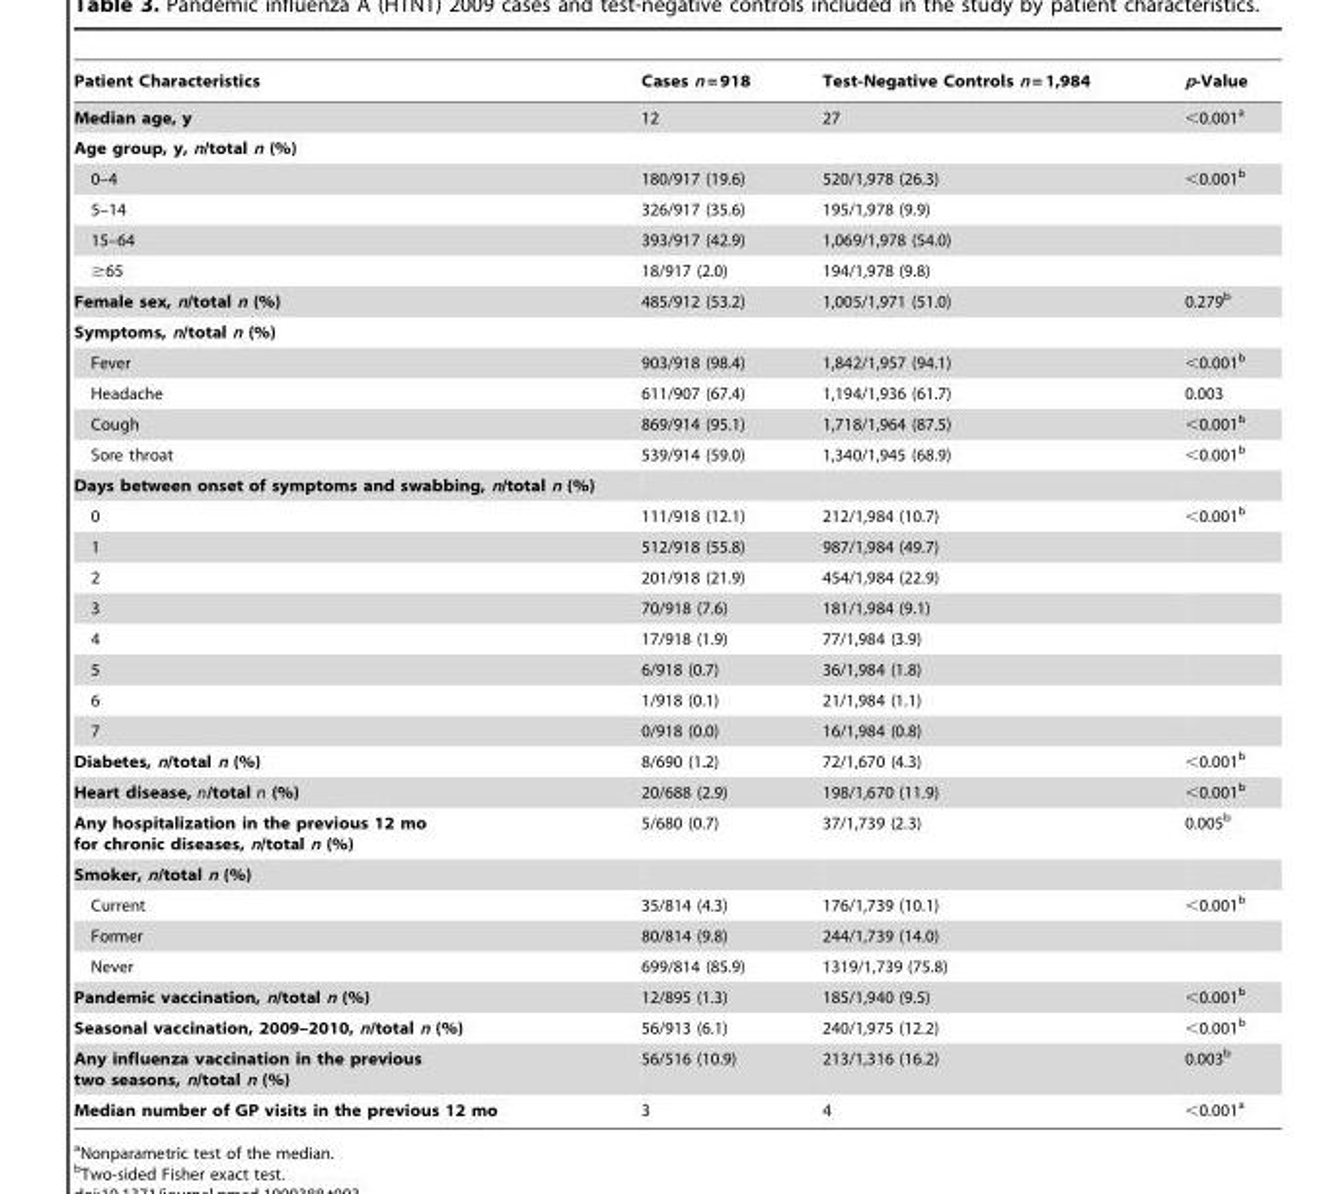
<table><thead><tr><td>Patient Characteristics</td><td>Cases n = 918</td><td>Test-Negative Controls n = 1,984</td><td>p-Value</td></tr></thead><tbody><tr><td>Median age, y</td><td>12</td><td>27</td><td>&lt;0.001<sup>a</sup></td></tr><tr><td colspan="4">Age group, y, n/total n (%)</td></tr><tr><td>0–4</td><td>180/917 (19.6)</td><td>520/1,978 (26.3)</td><td>&lt;0.001<sup>b</sup></td></tr><tr><td>5–14</td><td>326/917 (35.6)</td><td>195/1,978 (9.9)</td><td></td></tr><tr><td>15–64</td><td>393/917 (42.9)</td><td>1,069/1,978 (54.0)</td><td></td></tr><tr><td>≥65</td><td>18/917 (2.0)</td><td>194/1,978 (9.8)</td><td></td></tr><tr><td>Female sex, n/total n (%)</td><td>485/912 (53.2)</td><td>1,005/1,971 (51.0)</td><td>0.279<sup>b</sup></td></tr><tr><td colspan="4">Symptoms, n/total n (%)</td></tr><tr><td>Fever</td><td>903/918 (98.4)</td><td>1,842/1,957 (94.1)</td><td>&lt;0.001<sup>b</sup></td></tr><tr><td>Headache</td><td>611/907 (67.4)</td><td>1,194/1,936 (61.7)</td><td>0.003</td></tr><tr><td>Cough</td><td>869/914 (95.1)</td><td>1,718/1,964 (87.5)</td><td>&lt;0.001<sup>b</sup></td></tr><tr><td>Sore throat</td><td>539/914 (59.0)</td><td>1,340/1,945 (68.9)</td><td>&lt;0.001<sup>b</sup></td></tr><tr><td colspan="4">Days between onset of symptoms and swabbing, n/total n (%)</td></tr><tr><td>0</td><td>111/918 (12.1)</td><td>212/1,984 (10.7)</td><td>&lt;0.001<sup>b</sup></td></tr><tr><td>1</td><td>512/918 (55.8)</td><td>987/1,984 (49.7)</td><td></td></tr><tr><td>2</td><td>201/918 (21.9)</td><td>454/1,984 (22.9)</td><td></td></tr><tr><td>3</td><td>70/918 (7.6)</td><td>181/1,984 (9.1)</td><td></td></tr><tr><td>4</td><td>17/918 (1.9)</td><td>77/1,984 (3.9)</td><td></td></tr><tr><td>5</td><td>6/918 (0.7)</td><td>36/1,984 (1.8)</td><td></td></tr><tr><td>6</td><td>1/918 (0.1)</td><td>21/1,984 (1.1)</td><td></td></tr><tr><td>7</td><td>0/918 (0.0)</td><td>16/1,984 (0.8)</td><td></td></tr><tr><td>Diabetes, n/total n (%)</td><td>8/690 (1.2)</td><td>72/1,670 (4.3)</td><td>&lt;0.001<sup>b</sup></td></tr><tr><td>Heart disease, n/total n (%)</td><td>20/688 (2.9)</td><td>198/1,670 (11.9)</td><td>&lt;0.001<sup>b</sup></td></tr><tr><td>Any hospitalization in the previous 12 mo for chronic diseases, n/total n (%)</td><td>5/680 (0.7)</td><td>37/1,739 (2.3)</td><td>0.005<sup>b</sup></td></tr><tr><td colspan="4">Smoker, n/total n (%)</td></tr><tr><td>Current</td><td>35/814 (4.3)</td><td>176/1,739 (10.1)</td><td>&lt;0.001<sup>b</sup></td></tr><tr><td>Former</td><td>80/814 (9.8)</td><td>244/1,739 (14.0)</td><td></td></tr><tr><td>Never</td><td>699/814 (85.9)</td><td>1319/1,739 (75.8)</td><td></td></tr><tr><td>Pandemic vaccination, n/total n (%)</td><td>12/895 (1.3)</td><td>185/1,940 (9.5)</td><td>&lt;0.001<sup>b</sup></td></tr><tr><td>Seasonal vaccination, 2009–2010, n/total n (%)</td><td>56/913 (6.1)</td><td>240/1,975 (12.2)</td><td>&lt;0.001<sup>b</sup></td></tr><tr><td>Any influenza vaccination in the previous two seasons, n/total n (%)</td><td>56/516 (10.9)</td><td>213/1,316 (16.2)</td><td>0.003<sup>b</sup></td></tr><tr><td>Median number of GP visits in the previous 12 mo</td><td>3</td><td>4</td><td>&lt;0.001<sup>a</sup></td></tr></tbody></table>